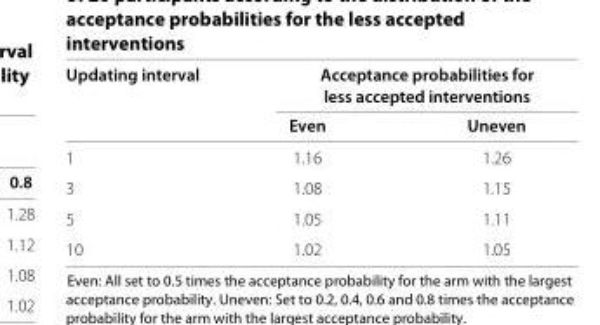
<table><thead><tr><td rowspan="3">Updating interval</td><td rowspan="2" colspan="2">Acceptance probabilities for less accepted interventions</td></tr><tr></tr><tr><td>Even</td><td>Uneven</td></tr></thead><tbody><tr><td>1</td><td>1.16</td><td>1.26</td></tr><tr><td>3</td><td>1.08</td><td>1.15</td></tr><tr><td>5</td><td>1.05</td><td>1.11</td></tr><tr><td>10</td><td>1.02</td><td>1.05</td></tr></tbody></table>